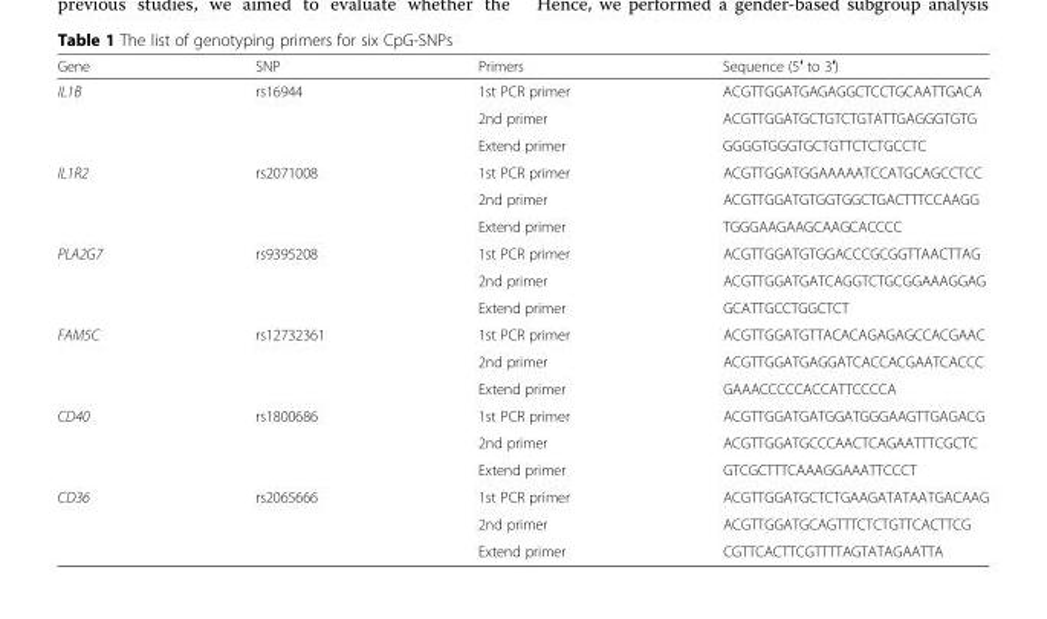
<table><thead><tr><td>Gene</td><td>SNP</td><td>Primers</td><td>Sequence (5′ to 3′)</td></tr></thead><tbody><tr><td rowspan="3">IL1B</td><td>rs16944</td><td>1st PCR primer</td><td>ACGTTGGATGAGAGGCTCCTGCAATTGACA</td></tr><tr><td></td><td>2nd primer</td><td>ACGTTGGATGCTGTCTGTATTGAGGGTGTG</td></tr><tr><td></td><td>Extend primer</td><td>GGGGTGGGTGCTGTTCTCTGCCTC</td></tr><tr><td rowspan="3">IL1R2</td><td>rs2071008</td><td>1st PCR primer</td><td>ACGTTGGATGGAAAAATCCATGCAGCCTCC</td></tr><tr><td></td><td>2nd primer</td><td>ACGTTGGATGTGGTGGCTGACTTTCCAAGG</td></tr><tr><td></td><td>Extend primer</td><td>TGGGAAGAAGCAAGCACCCC</td></tr><tr><td rowspan="3">PLA2G7</td><td>rs9395208</td><td>1st PCR primer</td><td>ACGTTGGATGTGGACCCGCGGTTAACTTAG</td></tr><tr><td></td><td>2nd primer</td><td>ACGTTGGATGATCAGGTCTGCGGAAAGGAG</td></tr><tr><td></td><td>Extend primer</td><td>GCATTGCCTGGCTCT</td></tr><tr><td rowspan="3">FAM5C</td><td>rs12732361</td><td>1st PCR primer</td><td>ACGTTGGATGTTACACAGAGAGCCACGAAC</td></tr><tr><td></td><td>2nd primer</td><td>ACGTTGGATGAGGATCACCACGAATCACCC</td></tr><tr><td></td><td>Extend primer</td><td>GAAACCCCCACCATTCCCCA</td></tr><tr><td rowspan="3">CD40</td><td>rs1800686</td><td>1st PCR primer</td><td>ACGTTGGATGATGGATGGGAAGTTGAGACG</td></tr><tr><td></td><td>2nd primer</td><td>ACGTTGGATGCCCAACTCAGAATTTCGCTC</td></tr><tr><td></td><td>Extend primer</td><td>GTCGCTTTCAAAGGAAATTCCCT</td></tr><tr><td rowspan="3">CD36</td><td>rs2065666</td><td>1st PCR primer</td><td>ACGTTGGATGCTCTGAAGATATAATGACAAG</td></tr><tr><td></td><td>2nd primer</td><td>ACGTTGGATGCAGTTTCTCTGTTCACTTCG</td></tr><tr><td></td><td>Extend primer</td><td>CGTTCACTTCGTTTTAGTATAGAATTA</td></tr></tbody></table>